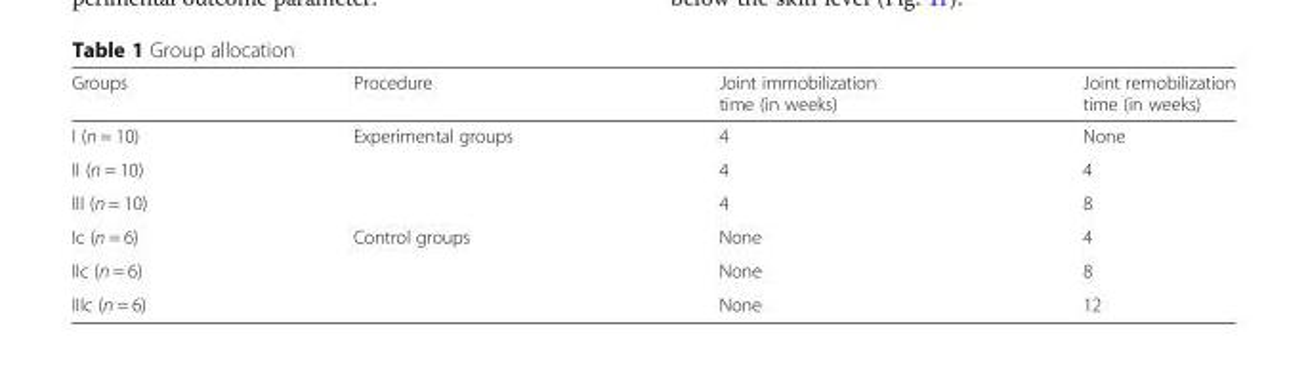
<table><thead><tr><td>Groups</td><td>Procedure</td><td>Joint immobilization time (in weeks)</td><td>Joint remobilization time (in weeks)</td></tr></thead><tbody><tr><td>I (n = 10)</td><td rowspan="3">Experimental groups</td><td>4</td><td>None</td></tr><tr><td>II (n = 10)</td><td>4</td><td>4</td></tr><tr><td>III (n = 10)</td><td>4</td><td>8</td></tr><tr><td>Ic (n = 6)</td><td rowspan="3">Control groups</td><td>None</td><td>4</td></tr><tr><td>IIc (n = 6)</td><td>None</td><td>8</td></tr><tr><td>IIIc (n = 6)</td><td>None</td><td>12</td></tr></tbody></table>